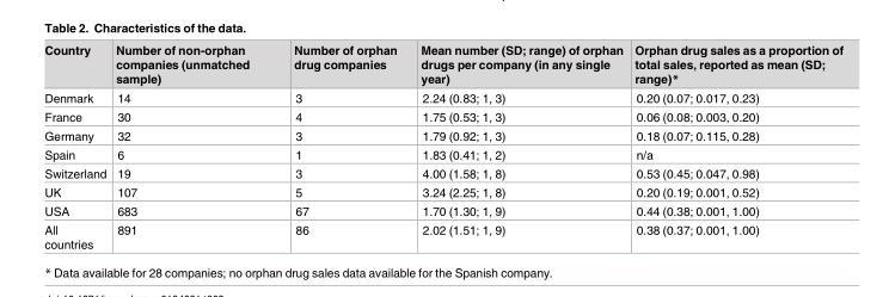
<table><thead><tr><td>Country</td><td>Number of non-orphan companies (unmatched sample)</td><td>Number of orphan drug companies</td><td>Mean number (SD; range) of orphan drugs per company (in any single year)</td><td>Orphan drug sales as a proportion of total sales, reported as mean (SD; range)*</td></tr></thead><tbody><tr><td>Denmark</td><td>14</td><td>3</td><td>2.24 (0.83; 1, 3)</td><td>0.20 (0.07; 0.017, 0.23)</td></tr><tr><td>France</td><td>30</td><td>4</td><td>1.75 (0.53; 1, 3)</td><td>0.06 (0.08; 0.003, 0.20)</td></tr><tr><td>Germany</td><td>32</td><td>3</td><td>1.79 (0.92; 1, 3)</td><td>0.18 (0.07; 0.115, 0.28)</td></tr><tr><td>Spain</td><td>6</td><td>1</td><td>1.83 (0.41; 1, 2)</td><td>n/a</td></tr><tr><td>Switzerland</td><td>19</td><td>3</td><td>4.00 (1.58; 1, 8)</td><td>0.53 (0.45; 0.047, 0.98)</td></tr><tr><td>UK</td><td>107</td><td>5</td><td>3.24 (2.25; 1, 8)</td><td>0.20 (0.19; 0.001, 0.52)</td></tr><tr><td>USA</td><td>683</td><td>67</td><td>1.70 (1.30; 1, 9)</td><td>0.44 (0.38; 0.001, 1.00)</td></tr><tr><td>All countries</td><td>891</td><td>86</td><td>2.02 (1.51; 1, 9)</td><td>0.38 (0.37; 0.001, 1.00)</td></tr></tbody></table>